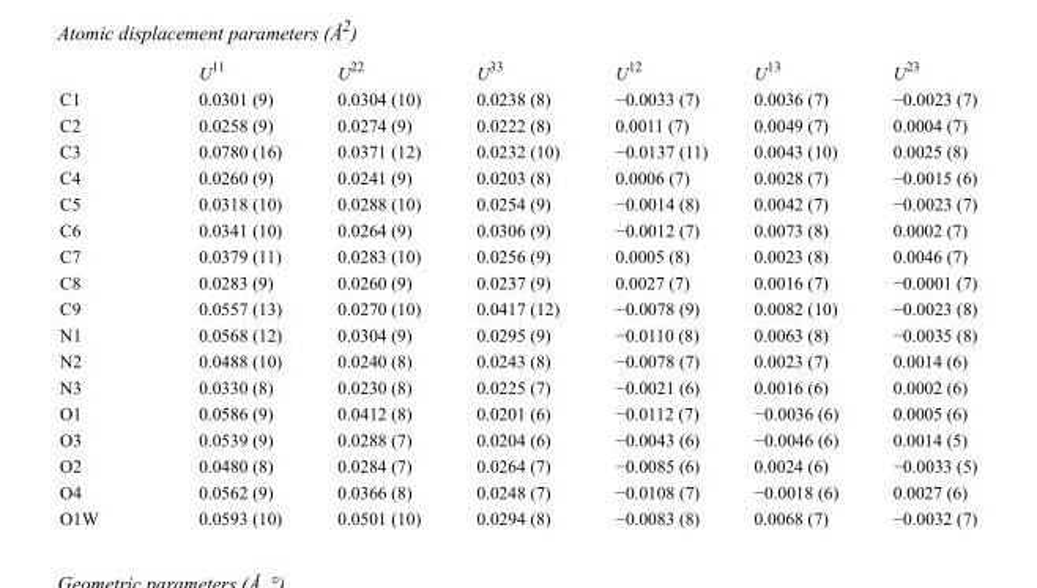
<table><thead><tr><td></td><td>U<sup>11</sup></td><td>U<sup>22</sup></td><td>U<sup>33</sup></td><td>U<sup>12</sup></td><td>U<sup>13</sup></td><td>U<sup>23</sup></td></tr></thead><tbody><tr><td>C1</td><td>0.0301 (9)</td><td>0.0304 (10)</td><td>0.0238 (8)</td><td>−0.0033 (7)</td><td>0.0036 (7)</td><td>−0.0023 (7)</td></tr><tr><td>C2</td><td>0.0258 (9)</td><td>0.0274 (9)</td><td>0.0222 (8)</td><td>0.0011 (7)</td><td>0.0049 (7)</td><td>0.0004 (7)</td></tr><tr><td>C3</td><td>0.0780 (16)</td><td>0.0371 (12)</td><td>0.0232 (10)</td><td>−0.0137 (11)</td><td>0.0043 (10)</td><td>0.0025 (8)</td></tr><tr><td>C4</td><td>0.0260 (9)</td><td>0.0241 (9)</td><td>0.0203 (8)</td><td>0.0006 (7)</td><td>0.0028 (7)</td><td>−0.0015 (6)</td></tr><tr><td>C5</td><td>0.0318 (10)</td><td>0.0288 (10)</td><td>0.0254 (9)</td><td>−0.0014 (8)</td><td>0.0042 (7)</td><td>−0.0023 (7)</td></tr><tr><td>C6</td><td>0.0341 (10)</td><td>0.0264 (9)</td><td>0.0306 (9)</td><td>−0.0012 (7)</td><td>0.0073 (8)</td><td>0.0002 (7)</td></tr><tr><td>C7</td><td>0.0379 (11)</td><td>0.0283 (10)</td><td>0.0256 (9)</td><td>0.0005 (8)</td><td>0.0023 (8)</td><td>0.0046 (7)</td></tr><tr><td>C8</td><td>0.0283 (9)</td><td>0.0260 (9)</td><td>0.0237 (9)</td><td>0.0027 (7)</td><td>0.0016 (7)</td><td>−0.0001 (7)</td></tr><tr><td>C9</td><td>0.0557 (13)</td><td>0.0270 (10)</td><td>0.0417 (12)</td><td>−0.0078 (9)</td><td>0.0082 (10)</td><td>−0.0023 (8)</td></tr><tr><td>N1</td><td>0.0568 (12)</td><td>0.0304 (9)</td><td>0.0295 (9)</td><td>−0.0110 (8)</td><td>0.0063 (8)</td><td>−0.0035 (8)</td></tr><tr><td>N2</td><td>0.0488 (10)</td><td>0.0240 (8)</td><td>0.0243 (8)</td><td>−0.0078 (7)</td><td>0.0023 (7)</td><td>0.0014 (6)</td></tr><tr><td>N3</td><td>0.0330 (8)</td><td>0.0230 (8)</td><td>0.0225 (7)</td><td>−0.0021 (6)</td><td>0.0016 (6)</td><td>0.0002 (6)</td></tr><tr><td>O1</td><td>0.0586 (9)</td><td>0.0412 (8)</td><td>0.0201 (6)</td><td>−0.0112 (7)</td><td>−0.0036 (6)</td><td>0.0005 (6)</td></tr><tr><td>O3</td><td>0.0539 (9)</td><td>0.0288 (7)</td><td>0.0204 (6)</td><td>−0.0043 (6)</td><td>−0.0046 (6)</td><td>0.0014 (5)</td></tr><tr><td>O2</td><td>0.0480 (8)</td><td>0.0284 (7)</td><td>0.0264 (7)</td><td>−0.0085 (6)</td><td>0.0024 (6)</td><td>−0.0033 (5)</td></tr><tr><td>O4</td><td>0.0562 (9)</td><td>0.0366 (8)</td><td>0.0248 (7)</td><td>−0.0108 (7)</td><td>−0.0018 (6)</td><td>0.0027 (6)</td></tr><tr><td>O1W</td><td>0.0593 (10)</td><td>0.0501 (10)</td><td>0.0294 (8)</td><td>−0.0083 (8)</td><td>0.0068 (7)</td><td>−0.0032 (7)</td></tr></tbody></table>